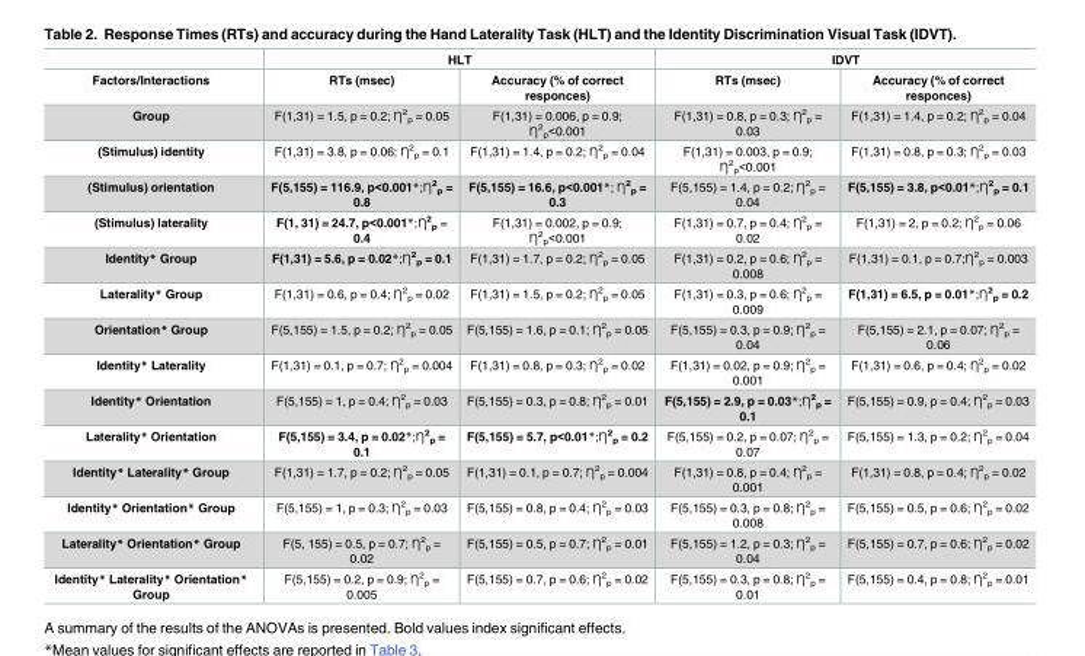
<table><thead><tr><td rowspan="2">Factors/Interactions</td><td colspan="2">HLT</td><td colspan="2">IDVT</td></tr><tr><td>RTs (msec)</td><td>Accuracy (% of correct responces)</td><td>RTs (msec)</td><td>Accuracy (% of correct responces)</td></tr></thead><tbody><tr><td>Group</td><td>F(1,31) = 1.5, p = 0.2; Ƞ<sup>2</sup> <sub>p</sub> = 0.05</td><td>F(1,31) = 0.006, p = 0.9; Ƞ<sup>2</sup> <sub>p</sub>&lt;0.001</td><td>F(1,31) = 0.8, p = 0.3; Ƞ<sup>2</sup> <sub>p</sub> = 0.03</td><td>F(1,31) = 1.4, p = 0.2; Ƞ<sup>2</sup> <sub>p</sub> = 0.04</td></tr><tr><td>(Stimulus) identity</td><td>F(1,31) = 3.8, p = 0.06; Ƞ<sup>2</sup> <sub>p</sub> = 0.1</td><td>F(1,31) = 1.4, p = 0.2; Ƞ<sup>2</sup> <sub>p</sub> = 0.04</td><td>F(1,31) = 0.003, p = 0.9; Ƞ<sup>2</sup> <sub>p</sub>&lt;0.001</td><td>F(1,31) = 0.8, p = 0.3; Ƞ<sup>2</sup> <sub>p</sub> = 0.03</td></tr><tr><td>(Stimulus) orientation</td><td>F(5,155) = 116.9, p&lt;0.001*;Ƞ<sup>2</sup> <sub>p</sub> = 0.8</td><td>F(5,155) = 16.6, p&lt;0.001*; Ƞ<sup>2</sup> <sub>p</sub> = 0.3</td><td>F(5,155) = 1.4, p = 0.2; Ƞ<sup>2</sup> <sub>p</sub> = 0.04</td><td>F(5,155) = 3.8, p&lt;0.01*;Ƞ<sup>2</sup> <sub>p</sub> = 0.1</td></tr><tr><td>(Stimulus) laterality</td><td>F(1, 31) = 24.7, p&lt;0.001*;Ƞ<sup>2</sup> <sub>p</sub> = 0.4</td><td>F(1,31) = 0.002, p = 0.9; Ƞ<sup>2</sup> <sub>p</sub>&lt;0.001</td><td>F(1,31) = 0.7, p = 0.4; Ƞ<sup>2</sup> <sub>p</sub> = 0.02</td><td>F(1,31) = 2, p = 0.2; Ƞ<sup>2</sup> <sub>p</sub> = 0.06</td></tr><tr><td>Identity* Group</td><td>F(1,31) = 5.6, p = 0.02*;Ƞ<sup>2</sup> <sub>p</sub> = 0.1</td><td>F(1,31) = 1.7, p = 0.2; Ƞ<sup>2</sup> <sub>p</sub> = 0.05</td><td>F(1,31) = 0.2, p = 0.6; Ƞ<sup>2</sup> <sub>p</sub> = 0.008</td><td>F(1,31) = 0.1, p = 0.7;Ƞ<sup>2</sup> <sub>p</sub> = 0.003</td></tr><tr><td>Laterality* Group</td><td>F(1,31) = 0.6, p = 0.4; Ƞ<sup>2</sup> <sub>p</sub> = 0.02</td><td>F(1,31) = 1.5, p = 0.2; Ƞ<sup>2</sup> <sub>p</sub> = 0.05</td><td>F(1,31) = 0.3, p = 0.6; Ƞ<sup>2</sup> <sub>p</sub> = 0.009</td><td>F(1,31) = 6.5, p = 0.01*;Ƞ<sup>2</sup> <sub>p</sub> = 0.2</td></tr><tr><td>Orientation* Group</td><td>F(5,155) = 1.5, p = 0.2; Ƞ<sup>2</sup> <sub>p</sub> = 0.05</td><td>F(5,155) = 1.6, p = 0.1; Ƞ<sup>2</sup> <sub>p</sub> = 0.05</td><td>F(5,155) = 0.3, p = 0.9; Ƞ<sup>2</sup> <sub>p</sub> = 0.04</td><td>F(5,155) = 2.1, p = 0.07; Ƞ<sup>2</sup> <sub>p</sub> = 0.06</td></tr><tr><td>Identity* Laterality</td><td>F(1,31) = 0.1, p = 0.7; Ƞ<sup>2</sup> <sub>p</sub> = 0.004</td><td>F(1,31) = 0.8, p = 0.3; Ƞ<sup>2</sup> <sub>p</sub> = 0.02</td><td>F(1,31) = 0.02, p = 0.9; Ƞ<sup>2</sup> <sub>p</sub> = 0.001</td><td>F(1,31) = 0.6, p = 0.4; Ƞ<sup>2</sup> <sub>p</sub> = 0.02</td></tr><tr><td>Identity* Orientation</td><td>F(5,155) = 1, p = 0.4; Ƞ<sup>2</sup> <sub>p</sub> = 0.03</td><td>F(5,155) = 0.3, p = 0.8; Ƞ<sup>2</sup> <sub>p</sub> = 0.01</td><td>F(5,155) = 2.9, p = 0.03*;Ƞ<sup>2</sup> <sub>p</sub> = 0.1</td><td>F(5,155) = 0.9, p = 0.4; Ƞ<sup>2</sup> <sub>p</sub> = 0.03</td></tr><tr><td>Laterality* Orientation</td><td>F(5,155) = 3.4, p = 0.02*;Ƞ<sup>2</sup> <sub>p</sub> = 0.1</td><td>F(5,155) = 5.7, p&lt;0.01*;Ƞ<sup>2</sup> <sub>p</sub> = 0.2</td><td>F(5,155) = 0.2, p = 0.07; Ƞ<sup>2</sup> <sub>p</sub> = 0.07</td><td>F(5,155) = 1.3, p = 0.2; Ƞ<sup>2</sup> <sub>p</sub> = 0.04</td></tr><tr><td>Identity* Laterality* Group</td><td>F(1,31) = 1.7, p = 0.2; Ƞ<sup>2</sup> <sub>p</sub> = 0.05</td><td>F(1,31) = 0.1, p = 0.7; Ƞ<sup>2</sup> <sub>p</sub> = 0.004</td><td>F(1,31) = 0.8, p = 0.4; Ƞ<sup>2</sup> <sub>p</sub> = 0.001</td><td>F(1,31) = 0.8, p = 0.4; Ƞ<sup>2</sup> <sub>p</sub> = 0.02</td></tr><tr><td>Identity* Orientation* Group</td><td>F(5,155) = 1, p = 0.3; Ƞ<sup>2</sup> <sub>p</sub> = 0.03</td><td>F(5,155) = 0.8, p = 0.4; Ƞ<sup>2</sup> <sub>p</sub> = 0.03</td><td>F(5,155) = 0.3, p = 0.8; Ƞ<sup>2</sup> <sub>p</sub> = 0.008</td><td>F(5,155) = 0.5, p = 0.6; Ƞ<sup>2</sup> <sub>p</sub> = 0.02</td></tr><tr><td>Laterality* Orientation* Group</td><td>F(5, 155) = 0.5, p = 0.7; Ƞ<sup>2</sup> <sub>p</sub> = 0.02</td><td>F(5,155) = 0.5, p = 0.7; Ƞ<sup>2</sup> <sub>p</sub> = 0.01</td><td>F(5,155) = 1.2, p = 0.3; Ƞ<sup>2</sup> <sub>p</sub> = 0.04</td><td>F(5,155) = 0.7, p = 0.6; Ƞ<sup>2</sup> <sub>p</sub> = 0.02</td></tr><tr><td>Identity* Laterality* Orientation* Group</td><td>F(5,155) = 0.2, p = 0.9; Ƞ<sup>2</sup> <sub>p</sub> = 0.005</td><td>F(5,155) = 0.7, p = 0.6; Ƞ<sup>2</sup> <sub>p</sub> = 0.02</td><td>F(5,155) = 0.3, p = 0.8; Ƞ<sup>2</sup> <sub>p</sub> = 0.01</td><td>F(5,155) = 0.4, p = 0.8; Ƞ<sup>2</sup> <sub>p</sub> = 0.01</td></tr></tbody></table>